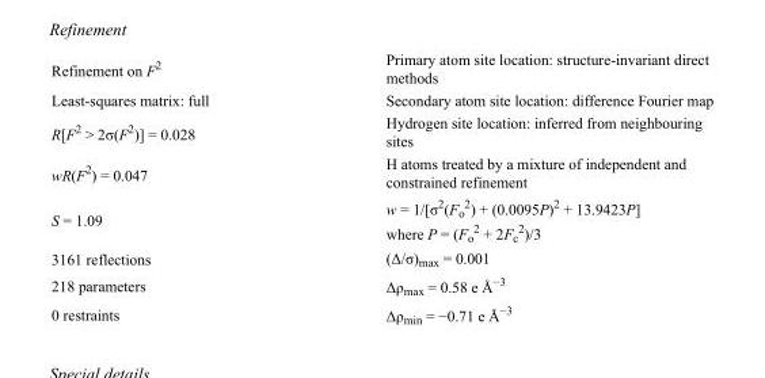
<table><tbody><tr><td>Refinement on F<sup>2</sup></td><td>Primary atom site location: structure-invariant direct methods</td></tr><tr><td>Least-squares matrix: full</td><td>Secondary atom site location: difference Fourier map</td></tr><tr><td>R[F<sup>2</sup> &gt; 2σ(F<sup>2</sup>)] = 0.028</td><td>Hydrogen site location: inferred from neighbouring sites</td></tr><tr><td>wR(F<sup>2</sup>) = 0.047</td><td>H atoms treated by a mixture of independent and constrained refinement</td></tr><tr><td>S = 1.09</td><td>w = 1/[σ<sup>2</sup>(F<sub>o</sub> <sup>2</sup>) + (0.0095P)<sup>2</sup> + 13.9423P] where P = (F<sub>o</sub> <sup>2</sup> + 2F<sub>c</sub> <sup>2</sup>)/3</td></tr><tr><td>3161 reflections</td><td>(Δ/σ)<sub>max</sub> = 0.001</td></tr><tr><td>218 parameters</td><td>Δρ<sub>max</sub> = 0.58 e Å<sup>−3</sup></td></tr><tr><td>0 restraints</td><td>Δρ<sub>min</sub> = −0.71 e Å<sup>−3</sup></td></tr></tbody></table>